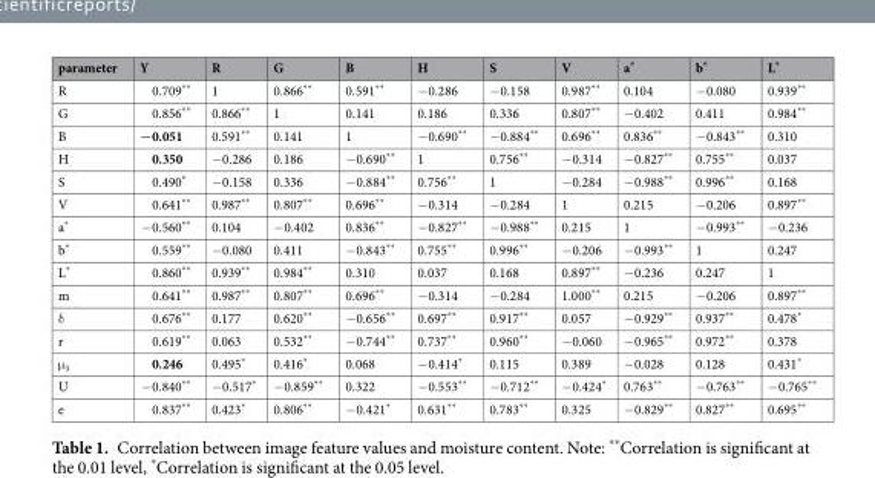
<table><thead><tr><td>parameter</td><td>Y</td><td>R</td><td>G</td><td>B</td><td>H</td><td>S</td><td>V</td><td>a*</td><td>b*</td><td>L*</td></tr></thead><tbody><tr><td>R</td><td>0.709**</td><td>1</td><td>0.866**</td><td>0.591**</td><td>−0.286</td><td>−0.158</td><td>0.987**</td><td>0.104</td><td>−0.080</td><td>0.939**</td></tr><tr><td>G</td><td>0.856**</td><td>0.866**</td><td>1</td><td>0.141</td><td>0.186</td><td>0.336</td><td>0.807**</td><td>−0.402</td><td>0.411</td><td>0.984**</td></tr><tr><td>B</td><td>−0.051</td><td>0.591**</td><td>0.141</td><td>1</td><td>−0.690**</td><td>−0.884**</td><td>0.696**</td><td>0.836**</td><td>−0.843**</td><td>0.310</td></tr><tr><td>H</td><td>0.350</td><td>−0.286</td><td>0.186</td><td>−0.690**</td><td>1</td><td>0.756**</td><td>−0.314</td><td>−0.827**</td><td>0.755**</td><td>0.037</td></tr><tr><td>S</td><td>0.490*</td><td>−0.158</td><td>0.336</td><td>−0.884**</td><td>0.756**</td><td>1</td><td>−0.284</td><td>−0.988**</td><td>0.996**</td><td>0.168</td></tr><tr><td>V</td><td>0.641**</td><td>0.987**</td><td>0.807**</td><td>0.696**</td><td>−0.314</td><td>−0.284</td><td>1</td><td>0.215</td><td>−0.206</td><td>0.897**</td></tr><tr><td>a*</td><td>−0.560**</td><td>0.104</td><td>−0.402</td><td>0.836**</td><td>−0.827**</td><td>−0.988**</td><td>0.215</td><td>1</td><td>−0.993**</td><td>−0.236</td></tr><tr><td>b*</td><td>0.559**</td><td>−0.080</td><td>0.411</td><td>−0.843**</td><td>0.755**</td><td>0.996**</td><td>−0.206</td><td>−0.993**</td><td>1</td><td>0.247</td></tr><tr><td>L*</td><td>0.860**</td><td>0.939**</td><td>0.984**</td><td>0.310</td><td>0.037</td><td>0.168</td><td>0.897**</td><td>−0.236</td><td>0.247</td><td>1</td></tr><tr><td>m</td><td>0.641**</td><td>0.987**</td><td>0.807**</td><td>0.696**</td><td>−0.314</td><td>−0.284</td><td>1.000**</td><td>0.215</td><td>−0.206</td><td>0.897**</td></tr><tr><td>δ</td><td>0.676**</td><td>0.177</td><td>0.620**</td><td>−0.656**</td><td>0.697**</td><td>0.917**</td><td>0.057</td><td>−0.929**</td><td>0.937**</td><td>0.478*</td></tr><tr><td>r</td><td>0.619**</td><td>0.063</td><td>0.532**</td><td>−0.744**</td><td>0.737**</td><td>0.960**</td><td>−0.060</td><td>−0.965**</td><td>0.972**</td><td>0.378</td></tr><tr><td>μ<sub>3</sub></td><td>0.246</td><td>0.495*</td><td>0.416*</td><td>0.068</td><td>−0.414*</td><td>0.115</td><td>0.389</td><td>−0.028</td><td>0.128</td><td>0.431*</td></tr><tr><td>U</td><td>−0.840**</td><td>−0.517*</td><td>−0.859**</td><td>0.322</td><td>−0.553**</td><td>−0.712**</td><td>−0.424*</td><td>0.763**</td><td>−0.763**</td><td>−0.765**</td></tr><tr><td>e</td><td>0.837**</td><td>0.423*</td><td>0.806**</td><td>−0.421*</td><td>0.631**</td><td>0.783**</td><td>0.325</td><td>−0.829**</td><td>0.827**</td><td>0.695**</td></tr></tbody></table>